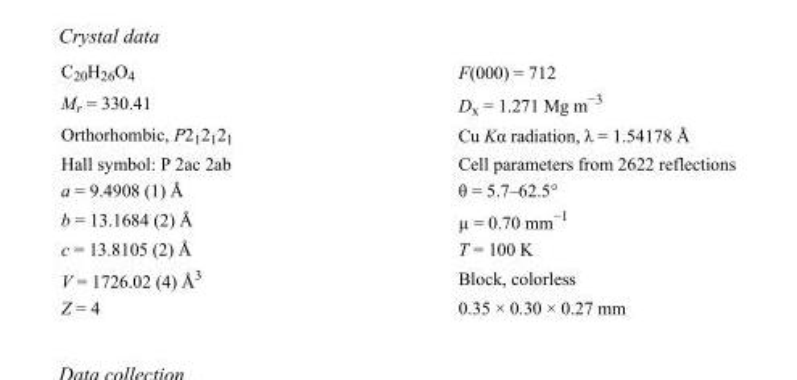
<table><tbody><tr><td>C<sub>20</sub>H<sub>26</sub>O<sub>4</sub></td><td>F(000) = 712</td></tr><tr><td>M<sub>r</sub> = 330.41</td><td>D<sub>x</sub> = 1.271 Mg m<sup>−3</sup></td></tr><tr><td>Orthorhombic, P2<sub>1</sub>2<sub>1</sub>2<sub>1</sub></td><td>Cu Kα radiation, λ = 1.54178 Å</td></tr><tr><td>Hall symbol: P 2ac 2ab</td><td>Cell parameters from 2622 reflections</td></tr><tr><td>a = 9.4908 (1) Å</td><td>θ = 5.7–62.5°</td></tr><tr><td>b = 13.1684 (2) Å</td><td>µ = 0.70 mm<sup>−1</sup></td></tr><tr><td>c = 13.8105 (2) Å</td><td>T = 100 K</td></tr><tr><td>V = 1726.02 (4) Å<sup>3</sup></td><td>Block, colorless</td></tr><tr><td>Z = 4</td><td>0.35 × 0.30 × 0.27 mm</td></tr></tbody></table>